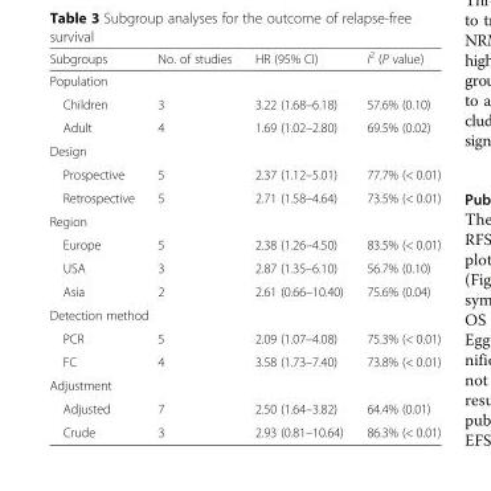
<table><thead><tr><td>Subgroups</td><td>No. of studies</td><td>HR (95% CI)</td><td>I<sup>2</sup> (P value)</td></tr></thead><tbody><tr><td colspan="4">Population</td></tr><tr><td>Children</td><td>3</td><td>3.22 (1.68–6.18)</td><td>57.6% (0.10)</td></tr><tr><td>Adult</td><td>4</td><td>1.69 (1.02–2.80)</td><td>69.5% (0.02)</td></tr><tr><td colspan="4">Design</td></tr><tr><td>Prospective</td><td>5</td><td>2.37 (1.12–5.01)</td><td>77.7% (&lt; 0.01)</td></tr><tr><td>Retrospective</td><td>5</td><td>2.71 (1.58–4.64)</td><td>73.5% (&lt; 0.01)</td></tr><tr><td colspan="4">Region</td></tr><tr><td>Europe</td><td>5</td><td>2.38 (1.26–4.50)</td><td>83.5% (&lt; 0.01)</td></tr><tr><td>USA</td><td>3</td><td>2.87 (1.35–6.10)</td><td>56.7% (0.10)</td></tr><tr><td>Asia</td><td>2</td><td>2.61 (0.66–10.40)</td><td>75.6% (0.04)</td></tr><tr><td colspan="4">Detection method</td></tr><tr><td>PCR</td><td>5</td><td>2.09 (1.07–4.08)</td><td>75.3% (&lt; 0.01)</td></tr><tr><td>FC</td><td>4</td><td>3.58 (1.73–7.40)</td><td>73.8% (&lt; 0.01)</td></tr><tr><td colspan="4">Adjustment</td></tr><tr><td>Adjusted</td><td>7</td><td>2.50 (1.64–3.82)</td><td>64.4% (0.01)</td></tr><tr><td>Crude</td><td>3</td><td>2.93 (0.81–10.64)</td><td>86.3% (&lt; 0.01)</td></tr></tbody></table>